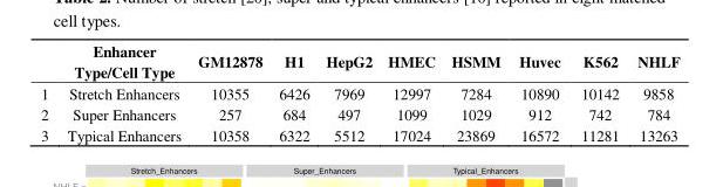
<table><thead><tr><td></td><td>Enhancer Type/Cell Type</td><td>GM12878</td><td>H1</td><td>HepG2</td><td>HMEC</td><td>HSMM</td><td>Huvec</td><td>K562</td><td>NHLF</td></tr></thead><tbody><tr><td>1</td><td>Stretch Enhancers</td><td>10355</td><td>6426</td><td>7969</td><td>12997</td><td>7284</td><td>10890</td><td>10142</td><td>9858</td></tr><tr><td>2</td><td>Super Enhancers</td><td>257</td><td>684</td><td>497</td><td>1099</td><td>1029</td><td>912</td><td>742</td><td>784</td></tr><tr><td>3</td><td>Typical Enhancers</td><td>10358</td><td>6322</td><td>5512</td><td>17024</td><td>23869</td><td>16572</td><td>11281</td><td>13263</td></tr></tbody></table>